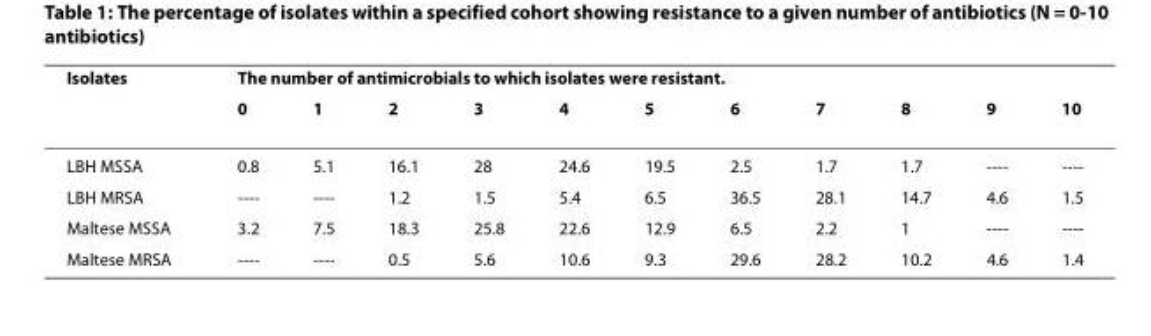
<table><thead><tr><td rowspan="2">Isolates</td><td colspan="11">The number of antimicrobials to which isolates were resistant.</td></tr><tr><td>0</td><td>1</td><td>2</td><td>3</td><td>4</td><td>5</td><td>6</td><td>7</td><td>8</td><td>9</td><td>10</td></tr></thead><tbody><tr><td>LBH MSSA</td><td>0.8</td><td>5.1</td><td>16.1</td><td>28</td><td>24.6</td><td>19.5</td><td>2.5</td><td>1.7</td><td>1.7</td><td>----</td><td>----</td></tr><tr><td>LBH MRSA</td><td>----</td><td>----</td><td>1.2</td><td>1.5</td><td>5.4</td><td>6.5</td><td>36.5</td><td>28.1</td><td>14.7</td><td>4.6</td><td>1.5</td></tr><tr><td>Maltese MSSA</td><td>3.2</td><td>7.5</td><td>18.3</td><td>25.8</td><td>22.6</td><td>12.9</td><td>6.5</td><td>2.2</td><td>1</td><td>----</td><td>----</td></tr><tr><td>Maltese MRSA</td><td>----</td><td>----</td><td>0.5</td><td>5.6</td><td>10.6</td><td>9.3</td><td>29.6</td><td>28.2</td><td>10.2</td><td>4.6</td><td>1.4</td></tr></tbody></table>